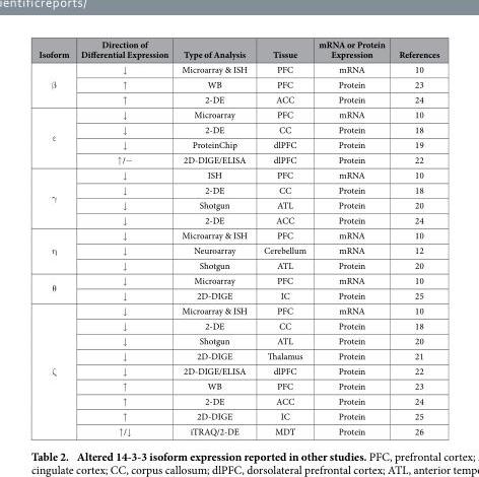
<table><thead><tr><td>Isoform</td><td>Direction of Differential Expression</td><td>Type of Analysis</td><td>Tissue</td><td>mRNA or Protein Expression</td><td>References</td></tr></thead><tbody><tr><td rowspan="3">β</td><td>↓</td><td>Microarray &amp; ISH</td><td>PFC</td><td>mRNA</td><td>10</td></tr><tr><td>↑</td><td>WB</td><td>PFC</td><td>Protein</td><td>23</td></tr><tr><td>↑</td><td>2-DE</td><td>ACC</td><td>Protein</td><td>24</td></tr><tr><td rowspan="4">ε</td><td>↓</td><td>Microarray</td><td>PFC</td><td>mRNA</td><td>10</td></tr><tr><td>↓</td><td>2-DE</td><td>CC</td><td>Protein</td><td>18</td></tr><tr><td>↓</td><td>ProteinChip</td><td>dlPFC</td><td>Protein</td><td>19</td></tr><tr><td>↑ /−</td><td>2D-DIGE/ELISA</td><td>dlPFC</td><td>Protein</td><td>22</td></tr><tr><td rowspan="4">γ</td><td>↓</td><td>ISH</td><td>PFC</td><td>mRNA</td><td>10</td></tr><tr><td>↓</td><td>2-DE</td><td>CC</td><td>Protein</td><td>18</td></tr><tr><td>↓</td><td>Shotgun</td><td>ATL</td><td>Protein</td><td>20</td></tr><tr><td>↓</td><td>2-DE</td><td>ACC</td><td>Protein</td><td>24</td></tr><tr><td rowspan="3">η</td><td>↓</td><td>Microarray &amp; ISH</td><td>PFC</td><td>mRNA</td><td>10</td></tr><tr><td>↓</td><td>Neuroarray</td><td>Cerebellum</td><td>mRNA</td><td>12</td></tr><tr><td>↓</td><td>Shotgun</td><td>ATL</td><td>Protein</td><td>20</td></tr><tr><td rowspan="2">θ</td><td>↓</td><td>Microarray</td><td>PFC</td><td>mRNA</td><td>10</td></tr><tr><td>↓</td><td>2D-DIGE</td><td>IC</td><td>Protein</td><td>25</td></tr><tr><td rowspan="9">ζ</td><td>↓</td><td>Microarray &amp; ISH</td><td>PFC</td><td>mRNA</td><td>10</td></tr><tr><td>↓</td><td>2-DE</td><td>CC</td><td>Protein</td><td>18</td></tr><tr><td>↓</td><td>Shotgun</td><td>ATL</td><td>Protein</td><td>20</td></tr><tr><td>↓</td><td>2D-DIGE</td><td>Thalamus</td><td>Protein</td><td>21</td></tr><tr><td>↓</td><td>2D-DIGE/ELISA</td><td>dlPFC</td><td>Protein</td><td>22</td></tr><tr><td>↑</td><td>WB</td><td>PFC</td><td>Protein</td><td>23</td></tr><tr><td>↑</td><td>2-DE</td><td>ACC</td><td>Protein</td><td>24</td></tr><tr><td>↑</td><td>2D-DIGE</td><td>IC</td><td>Protein</td><td>25</td></tr><tr><td>↑ /↓</td><td>iTRAQ/2-DE</td><td>MDT</td><td>Protein</td><td>26</td></tr></tbody></table>